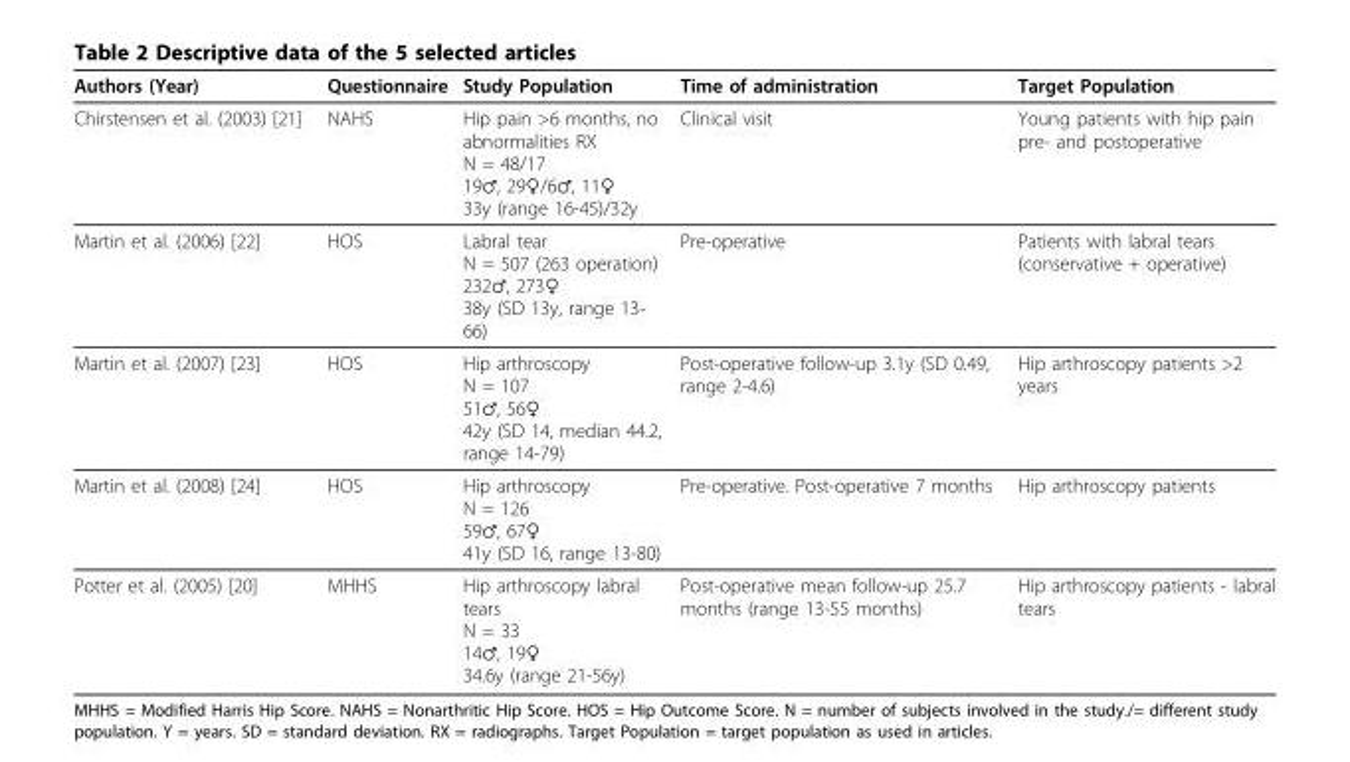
<table><thead><tr><td>Authors (Year)</td><td>Questionnaire</td><td>Study Population</td><td>Time of administration</td><td>Target Population</td></tr></thead><tbody><tr><td>Chirstensen et al. (2003) [21]</td><td>NAHS</td><td>Hip pain &gt;6 months, no abnormalities RX N = 48/17 19♂, 29♀/6♂, 11♀ 33y (range 16-45)/32y</td><td>Clinical visit</td><td>Young patients with hip pain pre- and postoperative</td></tr><tr><td>Martin et al. (2006) [22]</td><td>HOS</td><td>Labral tear N = 507 (263 operation) 232♂, 273♀ 38y (SD 13y, range 13- 66)</td><td>Pre-operative</td><td>Patients with labral tears (conservative + operative)</td></tr><tr><td>Martin et al. (2007) [23]</td><td>HOS</td><td>Hip arthroscopy N = 107 51♂, 56♀ 42y (SD 14, median 44.2, range 14-79)</td><td>Post-operative follow-up 3.1y (SD 0.49, range 2-4.6)</td><td>Hip arthroscopy patients &gt;2 years</td></tr><tr><td>Martin et al. (2008) [24]</td><td>HOS</td><td>Hip arthroscopy N = 126 59♂, 67♀ 41y (SD 16, range 13-80)</td><td>Pre-operative. Post-operative 7 months</td><td>Hip arthroscopy patients</td></tr><tr><td>Potter et al. (2005) [20]</td><td>MHHS</td><td>Hip arthroscopy labral tears N = 33 14♂, 19♀ 34.6y (range 21-56y)</td><td>Post-operative mean follow-up 25.7 months (range 13-55 months)</td><td>Hip arthroscopy patients - labral tears</td></tr></tbody></table>